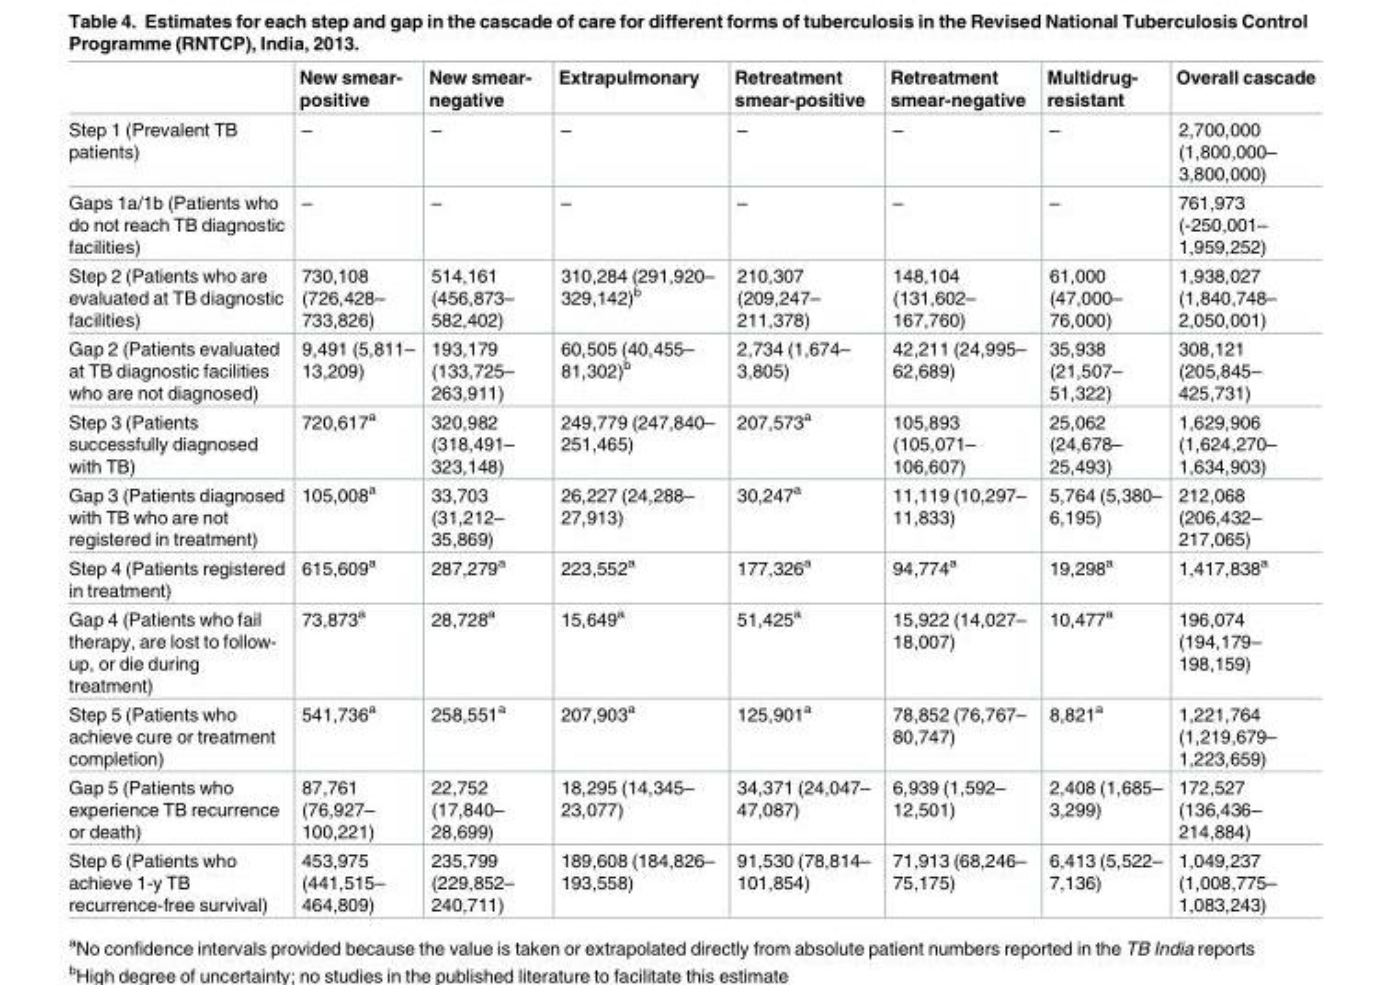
<table><thead><tr><td></td><td>New smear- positive</td><td>New smear- negative</td><td>Extrapulmonary</td><td>Retreatment smear-positive</td><td>Retreatment smear-negative</td><td>Multidrug- resistant</td><td>Overall cascade</td></tr></thead><tbody><tr><td>Step 1 (Prevalent TB patients)</td><td>–</td><td>–</td><td>–</td><td>–</td><td>–</td><td>–</td><td>2,700,000 (1,800,000– 3,800,000)</td></tr><tr><td>Gaps 1a/1b (Patients who do not reach TB diagnostic facilities)</td><td>–</td><td>–</td><td>–</td><td>–</td><td>–</td><td>–</td><td>761,973 (-250,001– 1,959,252)</td></tr><tr><td>Step 2 (Patients who are evaluated at TB diagnostic facilities)</td><td>730,108 (726,428– 733,826)</td><td>514,161 (456,873– 582,402)</td><td>310,284 (291,920– 329,142)<sup>b</sup></td><td>210,307 (209,247– 211,378)</td><td>148,104 (131,602– 167,760)</td><td>61,000 (47,000– 76,000)</td><td>1,938,027 (1,840,748– 2,050,001)</td></tr><tr><td>Gap 2 (Patients evaluated at TB diagnostic facilities who are not diagnosed)</td><td>9,491 (5,811– 13,209)</td><td>193,179 (133,725– 263,911)</td><td>60,505 (40,455– 81,302)<sup>b</sup></td><td>2,734 (1,674– 3,805)</td><td>42,211 (24,995– 62,689)</td><td>35,938 (21,507– 51,322)</td><td>308,121 (205,845– 425,731)</td></tr><tr><td>Step 3 (Patients successfully diagnosed with TB)</td><td>720,617<sup>a</sup></td><td>320,982 (318,491– 323,148)</td><td>249,779 (247,840– 251,465)</td><td>207,573<sup>a</sup></td><td>105,893 (105,071– 106,607)</td><td>25,062 (24,678– 25,493)</td><td>1,629,906 (1,624,270– 1,634,903)</td></tr><tr><td>Gap 3 (Patients diagnosed with TB who are not registered in treatment)</td><td>105,008<sup>a</sup></td><td>33,703 (31,212– 35,869)</td><td>26,227 (24,288– 27,913)</td><td>30,247<sup>a</sup></td><td>11,119 (10,297– 11,833)</td><td>5,764 (5,380– 6,195)</td><td>212,068 (206,432– 217,065)</td></tr><tr><td>Step 4 (Patients registered in treatment)</td><td>615,609<sup>a</sup></td><td>287,279<sup>a</sup></td><td>223,552<sup>a</sup></td><td>177,326<sup>a</sup></td><td>94,774<sup>a</sup></td><td>19,298<sup>a</sup></td><td>1,417,838<sup>a</sup></td></tr><tr><td>Gap 4 (Patients who fail therapy, are lost to follow- up, or die during treatment)</td><td>73,873<sup>a</sup></td><td>28,728<sup>a</sup></td><td>15,649<sup>a</sup></td><td>51,425<sup>a</sup></td><td>15,922 (14,027– 18,007)</td><td>10,477<sup>a</sup></td><td>196,074 (194,179– 198,159)</td></tr><tr><td>Step 5 (Patients who achieve cure or treatment completion)</td><td>541,736<sup>a</sup></td><td>258,551<sup>a</sup></td><td>207,903<sup>a</sup></td><td>125,901<sup>a</sup></td><td>78,852 (76,767– 80,747)</td><td>8,821<sup>a</sup></td><td>1,221,764 (1,219,679– 1,223,659)</td></tr><tr><td>Gap 5 (Patients who experience TB recurrence or death)</td><td>87,761 (76,927– 100,221)</td><td>22,752 (17,840– 28,699)</td><td>18,295 (14,345– 23,077)</td><td>34,371 (24,047– 47,087)</td><td>6,939 (1,592– 12,501)</td><td>2,408 (1,685– 3,299)</td><td>172,527 (136,436– 214,884)</td></tr><tr><td>Step 6 (Patients who achieve 1-y TB recurrence-free survival)</td><td>453,975 (441,515– 464,809)</td><td>235,799 (229,852– 240,711)</td><td>189,608 (184,826– 193,558)</td><td>91,530 (78,814– 101,854)</td><td>71,913 (68,246– 75,175)</td><td>6,413 (5,522– 7,136)</td><td>1,049,237 (1,008,775– 1,083,243)</td></tr></tbody></table>